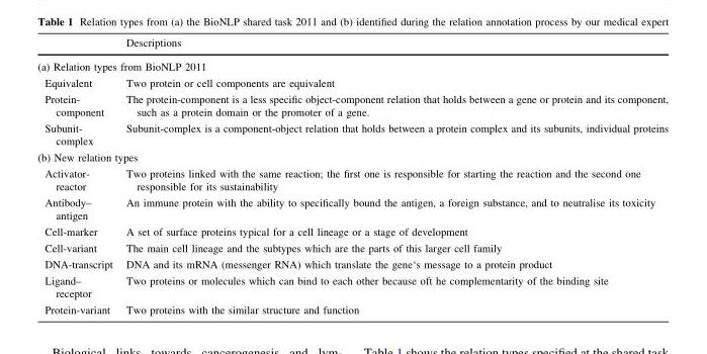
<table><thead><tr><td></td><td>Descriptions</td></tr></thead><tbody><tr><td colspan="2">(a) Relation types from BioNLP 2011</td></tr><tr><td>Equivalent</td><td>Two protein or cell components are equivalent</td></tr><tr><td>Protein- component</td><td>The protein-component is a less specific object-component relation that holds between a gene or protein and its component, such as a protein domain or the promoter of a gene.</td></tr><tr><td>Subunit- complex</td><td>Subunit-complex is a component-object relation that holds between a protein complex and its subunits, individual proteins</td></tr><tr><td colspan="2">(b) New relation types</td></tr><tr><td>Activator- reactor</td><td>Two proteins linked with the same reaction; the first one is responsible for starting the reaction and the second one responsible for its sustainability</td></tr><tr><td>Antibody– antigen</td><td>An immune protein with the ability to specifically bound the antigen, a foreign substance, and to neutralise its toxicity</td></tr><tr><td>Cell-marker</td><td>A set of surface proteins typical for a cell lineage or a stage of development</td></tr><tr><td>Cell-variant</td><td>The main cell lineage and the subtypes which are the parts of this larger cell family</td></tr><tr><td>DNA-transcript</td><td>DNA and its mRNA (messenger RNA) which translate the gene‘s message to a protein product</td></tr><tr><td>Ligand– receptor</td><td>Two proteins or molecules which can bind to each other because oft he complementarity of the binding site</td></tr><tr><td>Protein-variant</td><td>Two proteins with the similar structure and function</td></tr></tbody></table>